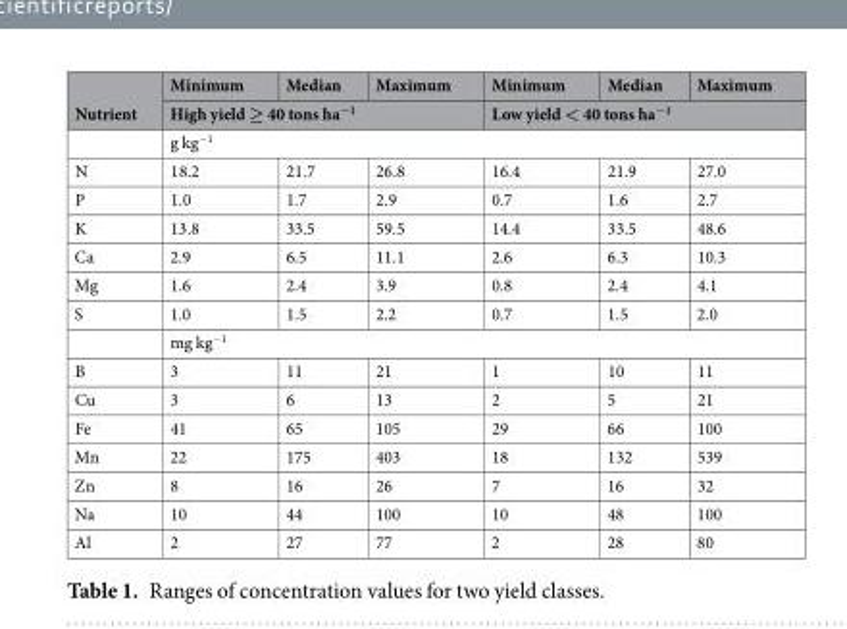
<table><thead><tr><td rowspan="2">Nutrient</td><td>Minimum</td><td>Median</td><td>Maximum</td><td>Minimum</td><td>Median</td><td>Maximum</td></tr><tr><td colspan="3">High yield ≥ 40 tons ha<sup>−1</sup></td><td colspan="3">Low yield &lt; 40 tons ha<sup>−1</sup></td></tr></thead><tbody><tr><td></td><td colspan="6">g kg<sup>−1</sup></td></tr><tr><td>N</td><td>18.2</td><td>21.7</td><td>26.8</td><td>16.4</td><td>21.9</td><td>27.0</td></tr><tr><td>P</td><td>1.0</td><td>1.7</td><td>2.9</td><td>0.7</td><td>1.6</td><td>2.7</td></tr><tr><td>K</td><td>13.8</td><td>33.5</td><td>59.5</td><td>14.4</td><td>33.5</td><td>48.6</td></tr><tr><td>Ca</td><td>2.9</td><td>6.5</td><td>11.1</td><td>2.6</td><td>6.3</td><td>10.3</td></tr><tr><td>Mg</td><td>1.6</td><td>2.4</td><td>3.9</td><td>0.8</td><td>2.4</td><td>4.1</td></tr><tr><td rowspan="2">S</td><td>1.0</td><td>1.5</td><td>2.2</td><td>0.7</td><td>1.5</td><td>2.0</td></tr><tr><td colspan="6">mg kg<sup>−1</sup></td></tr><tr><td>B</td><td>3</td><td>11</td><td>21</td><td>1</td><td>10</td><td>11</td></tr><tr><td>Cu</td><td>3</td><td>6</td><td>13</td><td>2</td><td>5</td><td>21</td></tr><tr><td>Fe</td><td>41</td><td>65</td><td>105</td><td>29</td><td>66</td><td>100</td></tr><tr><td>Mn</td><td>22</td><td>175</td><td>403</td><td>18</td><td>132</td><td>539</td></tr><tr><td>Zn</td><td>8</td><td>16</td><td>26</td><td>7</td><td>16</td><td>32</td></tr><tr><td>Na</td><td>10</td><td>44</td><td>100</td><td>10</td><td>48</td><td>100</td></tr><tr><td>Al</td><td>2</td><td>27</td><td>77</td><td>2</td><td>28</td><td>80</td></tr></tbody></table>